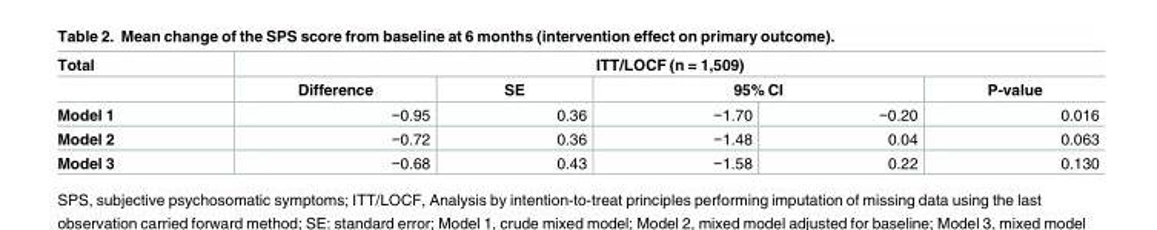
<table><thead><tr><td rowspan="3">Total Model 1</td><td colspan="5">ITT/LOCF (n = 1,509)</td></tr><tr><td rowspan="2">Difference −0.95</td><td rowspan="2">SE 0.36</td><td colspan="2">95% CI</td><td rowspan="2">P-value 0.016</td></tr><tr><td>−1.70</td><td>−0.20</td></tr></thead><tbody><tr><td>Model 2</td><td>−0.72</td><td>0.36</td><td>−1.48</td><td>0.04</td><td>0.063</td></tr><tr><td>Model 3</td><td>−0.68</td><td>0.43</td><td>−1.58</td><td>0.22</td><td>0.130</td></tr></tbody></table>